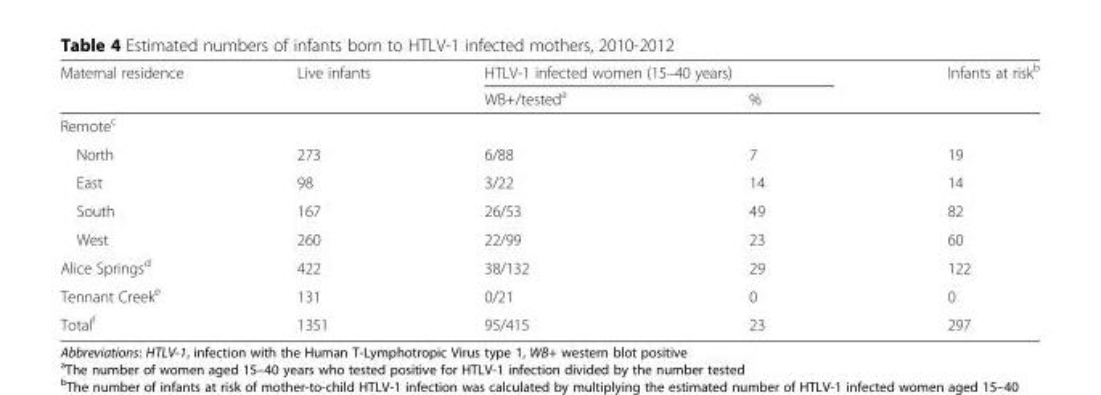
<table><thead><tr><td rowspan="2">Maternal residence</td><td rowspan="2">Live infants</td><td colspan="2">HTLV-1 infected women (15–40 years)</td><td rowspan="2">Infants at risk<sup>b</sup></td></tr><tr><td>WB+/tested<sup>a</sup></td><td>%</td></tr></thead><tbody><tr><td colspan="5">Remote<sup>c</sup></td></tr><tr><td>North</td><td>273</td><td>6/88</td><td>7</td><td>19</td></tr><tr><td>East</td><td>98</td><td>3/22</td><td>14</td><td>14</td></tr><tr><td>South</td><td>167</td><td>26/53</td><td>49</td><td>82</td></tr><tr><td>West</td><td>260</td><td>22/99</td><td>23</td><td>60</td></tr><tr><td>Alice Springs<sup>d</sup></td><td>422</td><td>38/132</td><td>29</td><td>122</td></tr><tr><td>Tennant Creek<sup>e</sup></td><td>131</td><td>0/21</td><td>0</td><td>0</td></tr><tr><td>Total<sup>f</sup></td><td>1351</td><td>95/415</td><td>23</td><td>297</td></tr></tbody></table>